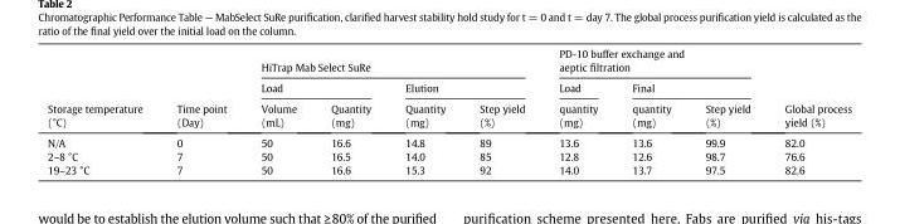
<table><thead><tr><td rowspan="3">Storage temperature (°C)</td><td rowspan="3">Time point (Day)</td><td colspan="4">HiTrap Mab Select SuRe</td><td colspan="3">PD-10 buffer exchange and aeptic filtration</td><td rowspan="3">Global process yield (%)</td></tr><tr><td colspan="2">Load</td><td colspan="2">Elution</td><td rowspan="2">Load quantity (mg)</td><td colspan="2">Final</td></tr><tr><td>Volume (mL)</td><td>Quantity (mg)</td><td>Quantity (mg)</td><td>Step yield (%)</td><td>quantity (mg)</td><td>Step yield (%)</td></tr></thead><tbody><tr><td>N/A</td><td>0</td><td>50</td><td>16.6</td><td>14.8</td><td>89</td><td>13.6</td><td>13.6</td><td>99.9</td><td>82.0</td></tr><tr><td>2–8 °C</td><td>7</td><td>50</td><td>16.5</td><td>14.0</td><td>85</td><td>12.8</td><td>12.6</td><td>98.7</td><td>76.6</td></tr><tr><td>19–23 °C</td><td>7</td><td>50</td><td>16.6</td><td>15.3</td><td>92</td><td>14.0</td><td>13.7</td><td>97.5</td><td>82.6</td></tr></tbody></table>